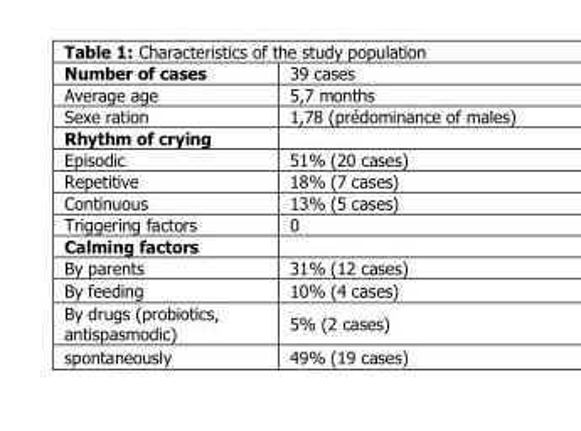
<table><tbody><tr><td>Number of cases</td><td>39 cases</td></tr><tr><td>Average age</td><td>5,7 months</td></tr><tr><td>Sexe ration</td><td>1,78 (prédominance of males)</td></tr><tr><td colspan="2">Rhythm of crying</td></tr><tr><td>Episodic</td><td>51% (20 cases)</td></tr><tr><td>Repetitive</td><td>18% (7 cases)</td></tr><tr><td>Continuous</td><td>13% (5 cases)</td></tr><tr><td>Triggering factors</td><td>0</td></tr><tr><td colspan="2">Calming factors</td></tr><tr><td>By parents</td><td>31% (12 cases)</td></tr><tr><td>By feeding</td><td>10% (4 cases)</td></tr><tr><td>By drugs (probiotics, antispasmodic)</td><td>5% (2 cases)</td></tr><tr><td>spontaneously</td><td>49% (19 cases)</td></tr></tbody></table>